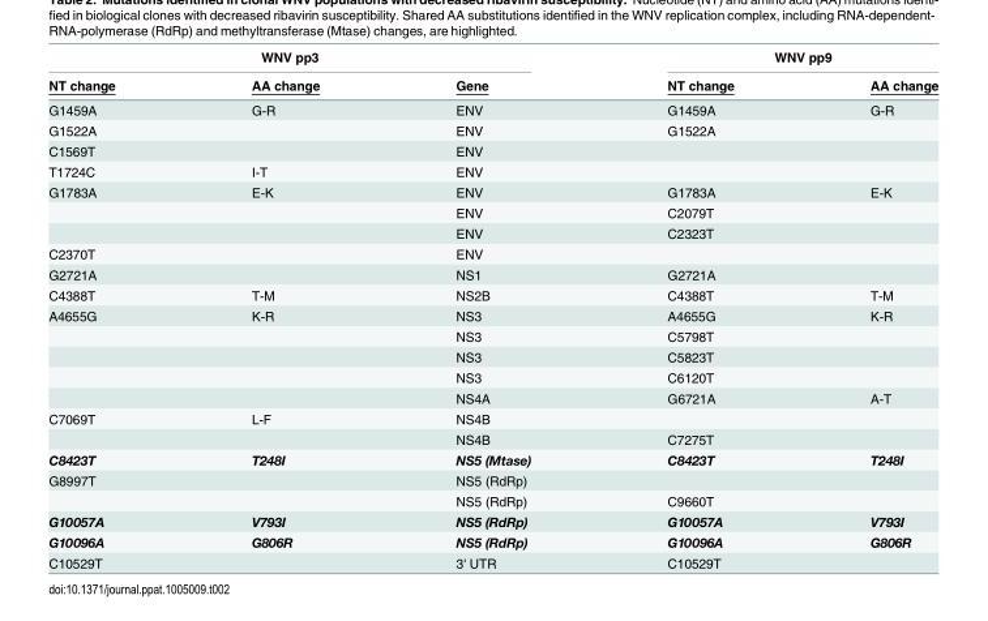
<table><thead><tr><td colspan="3">WNV pp3</td><td colspan="2">WNV pp9</td></tr><tr><td>NT change</td><td>AA change</td><td>Gene</td><td>NT change</td><td>AA change</td></tr></thead><tbody><tr><td>G1459A</td><td>G-R</td><td>ENV</td><td>G1459A</td><td>G-R</td></tr><tr><td>G1522A</td><td></td><td>ENV</td><td>G1522A</td><td></td></tr><tr><td>C1569T</td><td></td><td>ENV</td><td></td><td></td></tr><tr><td>T1724C</td><td>I-T</td><td>ENV</td><td></td><td></td></tr><tr><td rowspan="3">G1783A</td><td>E-K</td><td>ENV</td><td>G1783A</td><td>E-K</td></tr><tr><td></td><td>ENV</td><td>C2079T</td><td></td></tr><tr><td></td><td>ENV</td><td>C2323T</td><td></td></tr><tr><td>C2370T</td><td></td><td>ENV</td><td></td><td></td></tr><tr><td>G2721A</td><td></td><td>NS1</td><td>G2721A</td><td></td></tr><tr><td>C4388T</td><td>T-M</td><td>NS2B</td><td>C4388T</td><td>T-M</td></tr><tr><td rowspan="5">A4655G</td><td>K-R</td><td>NS3</td><td>A4655G</td><td>K-R</td></tr><tr><td></td><td>NS3</td><td>C5798T</td><td></td></tr><tr><td></td><td>NS3</td><td>C5823T</td><td></td></tr><tr><td></td><td>NS3</td><td>C6120T</td><td></td></tr><tr><td></td><td>NS4A</td><td>G6721A</td><td>A-T</td></tr><tr><td rowspan="2">C7069T</td><td>L-F</td><td>NS4B</td><td></td><td></td></tr><tr><td></td><td>NS4B</td><td>C7275T</td><td></td></tr><tr><td>C8423T</td><td>T248I</td><td>NS5 (Mtase)</td><td>C8423T</td><td>T248I</td></tr><tr><td rowspan="2">G8997T</td><td></td><td>NS5 (RdRp)</td><td></td><td></td></tr><tr><td></td><td>NS5 (RdRp)</td><td>C9660T</td><td></td></tr><tr><td>G10057A</td><td>V793I</td><td>NS5 (RdRp)</td><td>G10057A</td><td>V793I</td></tr><tr><td>G10096A</td><td>G806R</td><td>NS5 (RdRp)</td><td>G10096A</td><td>G806R</td></tr><tr><td>C10529T</td><td></td><td>3&#x27; UTR</td><td>C10529T</td><td></td></tr></tbody></table>